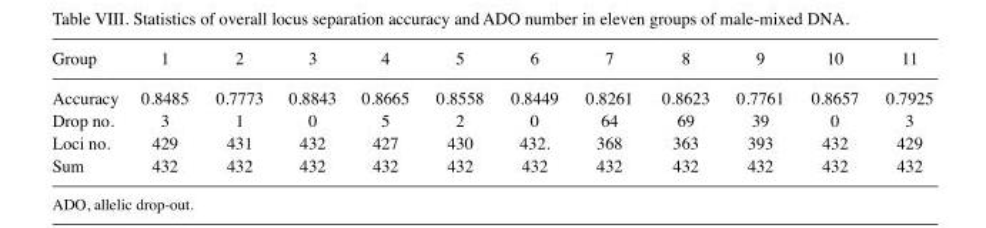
<table><thead><tr><td>Group</td><td>1</td><td>2</td><td>3</td><td>4</td><td>5</td><td>6</td><td>7</td><td>8</td><td>9</td><td>10</td><td>11</td></tr></thead><tbody><tr><td>Accuracy</td><td>0.8485</td><td>0.7773</td><td>0.8843</td><td>0.8665</td><td>0.8558</td><td>0.8449</td><td>0.8261</td><td>0.8623</td><td>0.7761</td><td>0.8657</td><td>0.7925</td></tr><tr><td>Drop no.</td><td>3</td><td>1</td><td>0</td><td>5</td><td>2</td><td>0</td><td>64</td><td>69</td><td>39</td><td>0</td><td>3</td></tr><tr><td>Loci no.</td><td>429</td><td>431</td><td>432</td><td>427</td><td>430</td><td>432.</td><td>368</td><td>363</td><td>393</td><td>432</td><td>429</td></tr><tr><td>Sum</td><td>432</td><td>432</td><td>432</td><td>432</td><td>432</td><td>432</td><td>432</td><td>432</td><td>432</td><td>432</td><td>432</td></tr></tbody></table>